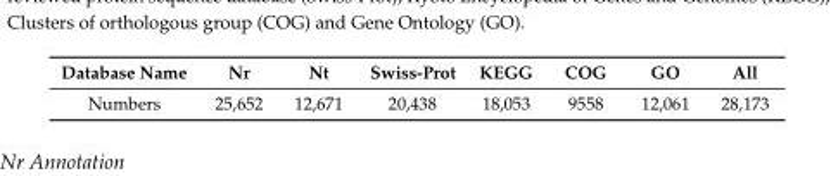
<table><thead><tr><td>Database Name</td><td>Nr</td><td>Nt</td><td>Swiss-Prot</td><td>KEGG</td><td>COG</td><td>GO</td><td>All</td></tr></thead><tbody><tr><td>Numbers</td><td>25,652</td><td>12,671</td><td>20,438</td><td>18,053</td><td>9558</td><td>12,061</td><td>28,173</td></tr></tbody></table>